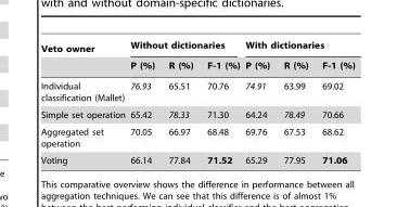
<table><thead><tr><td rowspan="2">Veto owner</td><td colspan="3">Without dictionaries</td><td colspan="3">With dictionaries</td></tr><tr><td>P (%)</td><td>R (%)</td><td>F-1 (%)</td><td>P (%)</td><td>R (%)</td><td>F-1 (%)</td></tr></thead><tbody><tr><td>Individual classification (Mallet)</td><td>76.93</td><td>65.51</td><td>70.76</td><td>74.91</td><td>63.99</td><td>69.02</td></tr><tr><td>Simple set operation</td><td>65.42</td><td>78.33</td><td>71.30</td><td>64.24</td><td>78.49</td><td>70.66</td></tr><tr><td>Aggregated set operation</td><td>70.05</td><td>66.97</td><td>68.48</td><td>69.76</td><td>67.53</td><td>68.62</td></tr><tr><td>Voting</td><td>66.14</td><td>77.84</td><td>71.52</td><td>65.29</td><td>77.95</td><td>71.06</td></tr></tbody></table>